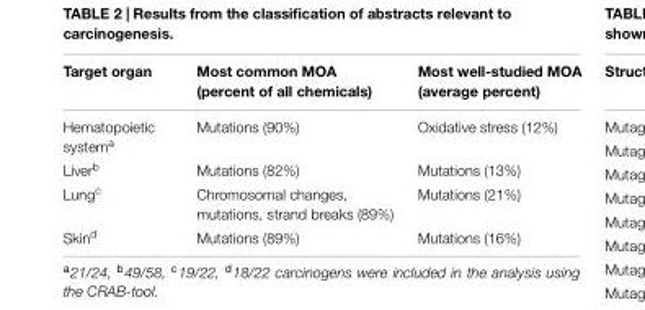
<table><thead><tr><td>Target organ</td><td>Most common MOA (percent of all chemicals)</td><td>Most well-studied MOA (average percent)</td></tr></thead><tbody><tr><td>Hematopoietic system<sup>a</sup></td><td>Mutations (90%)</td><td>Oxidative stress (12%)</td></tr><tr><td>Liver<sup>b</sup></td><td>Mutations (82%)</td><td>Mutations (13%)</td></tr><tr><td>Lung<sup>c</sup></td><td>Chromosomal changes, mutations, strand breaks (89%)</td><td>Mutations (21%)</td></tr><tr><td>Skin<sup>d</sup></td><td>Mutations (89%)</td><td>Mutations (16%)</td></tr></tbody></table>